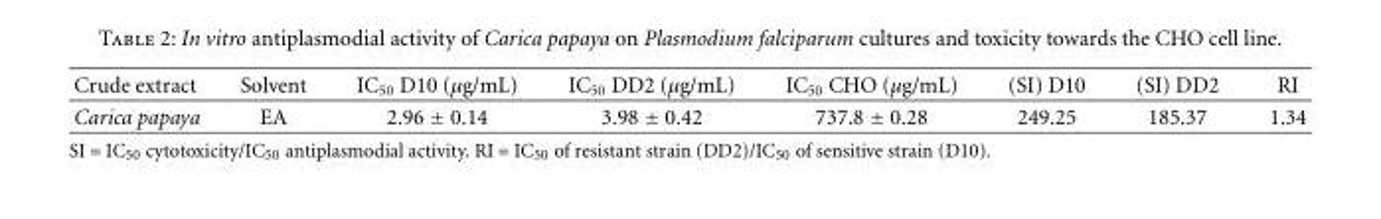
<table><thead><tr><td>Crude extract</td><td>Solvent</td><td>IC<sub>50</sub> D10 (μg/mL)</td><td>IC<sub>50</sub> DD2 (μg/mL)</td><td>IC<sub>50</sub> CHO (μg/mL)</td><td>(SI) D10</td><td>(SI) DD2</td><td>RI</td></tr></thead><tbody><tr><td>Carica papaya</td><td>EA</td><td>2.96 ± 0.14</td><td>3.98 ± 0.42</td><td>737.8 ± 0.28</td><td>249.25</td><td>185.37</td><td>1.34</td></tr></tbody></table>